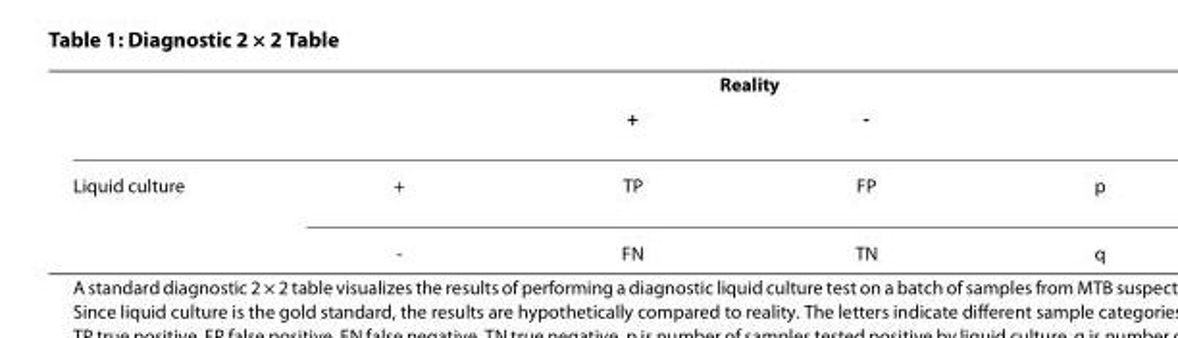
<table><thead><tr><td rowspan="2"></td><td rowspan="2"></td><td colspan="2">Reality</td><td rowspan="2"></td></tr><tr><td>+</td><td>-</td></tr></thead><tbody><tr><td rowspan="2">Liquid culture</td><td>+</td><td>TP</td><td>FP</td><td>p</td></tr><tr><td>-</td><td>FN</td><td>TN</td><td>q</td></tr></tbody></table>